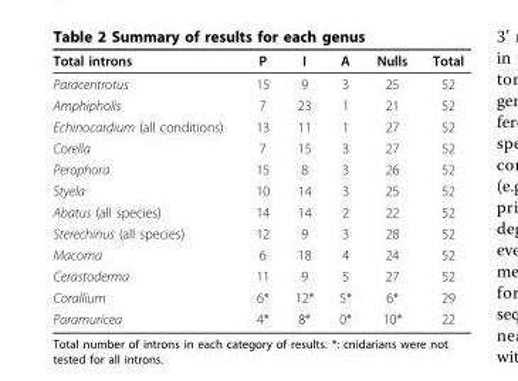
<table><thead><tr><td>Total introns</td><td>P</td><td>I</td><td>A</td><td>Nulls</td><td>Total</td></tr></thead><tbody><tr><td>Paracentrotus</td><td>15</td><td>9</td><td>3</td><td>25</td><td>52</td></tr><tr><td>Amphipholis</td><td>7</td><td>23</td><td>1</td><td>21</td><td>52</td></tr><tr><td>Echinocardium (all conditions)</td><td>13</td><td>11</td><td>1</td><td>27</td><td>52</td></tr><tr><td>Corella</td><td>7</td><td>15</td><td>3</td><td>27</td><td>52</td></tr><tr><td>Perophora</td><td>15</td><td>8</td><td>3</td><td>26</td><td>52</td></tr><tr><td>Styela</td><td>10</td><td>14</td><td>3</td><td>25</td><td>52</td></tr><tr><td>Abatus (all species)</td><td>14</td><td>14</td><td>2</td><td>22</td><td>52</td></tr><tr><td>Sterechinus (all species)</td><td>12</td><td>9</td><td>3</td><td>28</td><td>52</td></tr><tr><td>Macoma</td><td>6</td><td>18</td><td>4</td><td>24</td><td>52</td></tr><tr><td>Cerastoderma</td><td>11</td><td>9</td><td>5</td><td>27</td><td>52</td></tr><tr><td>Corallium</td><td>6*</td><td>12*</td><td>5*</td><td>6*</td><td>29</td></tr><tr><td>Paramuricea</td><td>4*</td><td>8*</td><td>0*</td><td>10*</td><td>22</td></tr></tbody></table>